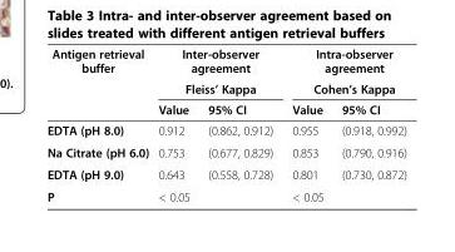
<table><thead><tr><td rowspan="2">Antigen retrieval buffer</td><td colspan="2">Inter-observer agreement Fleiss’ Kappa</td><td colspan="2">Intra-observer agreement Cohen’s Kappa</td></tr><tr><td>Value</td><td>95% CI</td><td>Value</td><td>95% CI</td></tr></thead><tbody><tr><td>EDTA (pH 8.0)</td><td>0.912</td><td>(0.862, 0.912)</td><td>0.955</td><td>(0.918, 0.992)</td></tr><tr><td>Na Citrate (pH 6.0)</td><td>0.753</td><td>(0.677, 0.829)</td><td>0.853</td><td>(0.790, 0.916)</td></tr><tr><td>EDTA (pH 9.0)</td><td>0.643</td><td>(0.558, 0.728)</td><td>0.801</td><td>(0.730, 0.872)</td></tr><tr><td>P</td><td>&lt; 0.05</td><td></td><td>&lt; 0.05</td><td></td></tr></tbody></table>